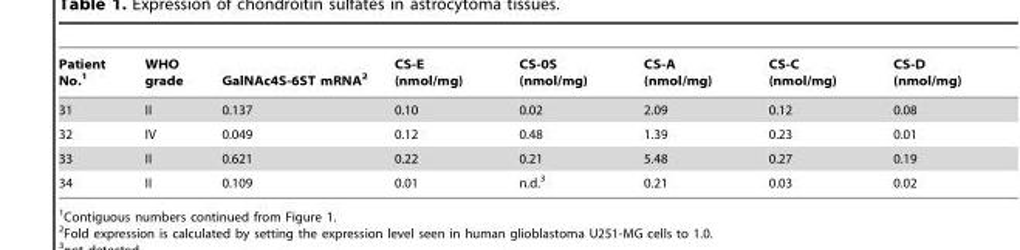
<table><thead><tr><td>Patient No.<sup>1</sup></td><td>WHO grade</td><td>GalNAc4S-6ST mRNA<sup>2</sup></td><td>CS-E (nmol/mg)</td><td>CS-0S (nmol/mg)</td><td>CS-A (nmol/mg)</td><td>CS-C (nmol/mg)</td><td>CS-D (nmol/mg)</td></tr></thead><tbody><tr><td>31</td><td>II</td><td>0.137</td><td>0.10</td><td>0.02</td><td>2.09</td><td>0.12</td><td>0.08</td></tr><tr><td>32</td><td>IV</td><td>0.049</td><td>0.12</td><td>0.48</td><td>1.39</td><td>0.23</td><td>0.01</td></tr><tr><td>33</td><td>II</td><td>0.621</td><td>0.22</td><td>0.21</td><td>5.48</td><td>0.27</td><td>0.19</td></tr><tr><td>34</td><td>II</td><td>0.109</td><td>0.01</td><td>n.d.<sup>3</sup></td><td>0.21</td><td>0.03</td><td>0.02</td></tr></tbody></table>